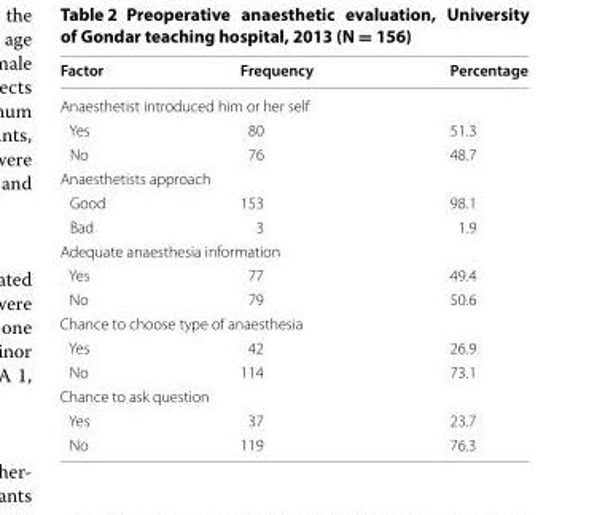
<table><thead><tr><td>Factor</td><td>Frequency</td><td>Percentage</td></tr></thead><tbody><tr><td colspan="3">Anaesthetist introduced him or her self</td></tr><tr><td>Yes</td><td>80</td><td>51.3</td></tr><tr><td>No</td><td>76</td><td>48.7</td></tr><tr><td colspan="3">Anaesthetists approach</td></tr><tr><td>Good</td><td>153</td><td>98.1</td></tr><tr><td>Bad</td><td>3</td><td>1.9</td></tr><tr><td colspan="3">Adequate anaesthesia information</td></tr><tr><td>Yes</td><td>77</td><td>49.4</td></tr><tr><td>No</td><td>79</td><td>50.6</td></tr><tr><td colspan="3">Chance to choose type of anaesthesia</td></tr><tr><td>Yes</td><td>42</td><td>26.9</td></tr><tr><td>No</td><td>114</td><td>73.1</td></tr><tr><td colspan="3">Chance to ask question</td></tr><tr><td>Yes</td><td>37</td><td>23.7</td></tr><tr><td>No</td><td>119</td><td>76.3</td></tr></tbody></table>